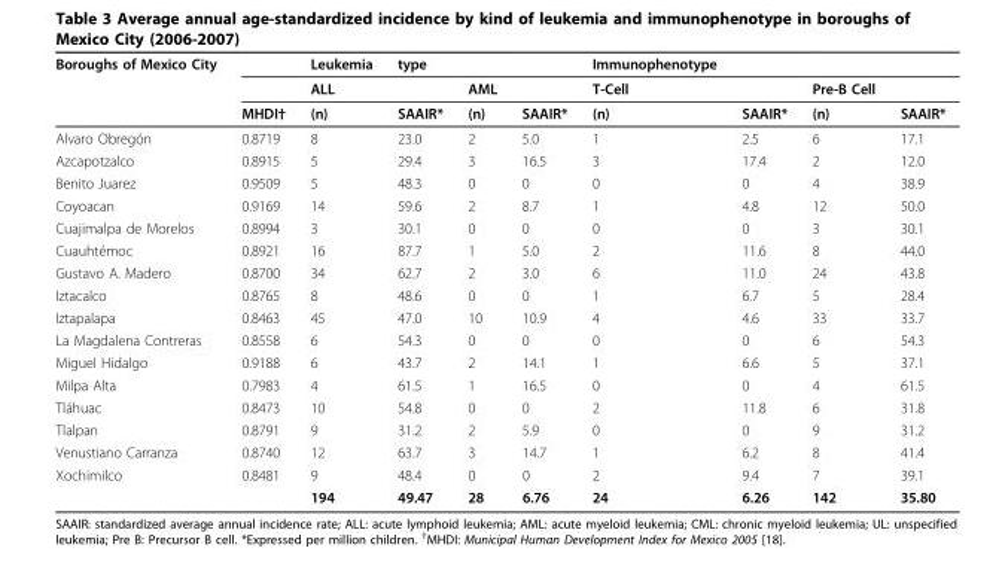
<table><thead><tr><td rowspan="3">Boroughs of Mexico City</td><td rowspan="3">MHDI†</td><td rowspan="3">Leukemia ALL (n)</td><td rowspan="3">type SAAIR*</td><td rowspan="3">AML (n)</td><td rowspan="3">SAAIR*</td><td rowspan="3">Immunophenotype T-Cell (n)</td><td rowspan="3">SAAIR*</td><td rowspan="3">Pre-B Cell (n)</td><td rowspan="3">SAAIR*</td></tr><tr></tr><tr></tr></thead><tbody><tr><td>Alvaro Obregón</td><td>0.8719</td><td>8</td><td>23.0</td><td>2</td><td>5.0</td><td>1</td><td>2.5</td><td>6</td><td>17.1</td></tr><tr><td>Azcapotzalco</td><td>0.8915</td><td>5</td><td>29.4</td><td>3</td><td>16.5</td><td>3</td><td>17.4</td><td>2</td><td>12.0</td></tr><tr><td>Benito Juarez</td><td>0.9509</td><td>5</td><td>48.3</td><td>0</td><td>0</td><td>0</td><td>0</td><td>4</td><td>38.9</td></tr><tr><td>Coyoacan</td><td>0.9169</td><td>14</td><td>59.6</td><td>2</td><td>8.7</td><td>1</td><td>4.8</td><td>12</td><td>50.0</td></tr><tr><td>Cuajimalpa de Morelos</td><td>0.8994</td><td>3</td><td>30.1</td><td>0</td><td>0</td><td>0</td><td>0</td><td>3</td><td>30.1</td></tr><tr><td>Cuauhtémoc</td><td>0.8921</td><td>16</td><td>87.7</td><td>1</td><td>5.0</td><td>2</td><td>11.6</td><td>8</td><td>44.0</td></tr><tr><td>Gustavo A. Madero</td><td>0.8700</td><td>34</td><td>62.7</td><td>2</td><td>3.0</td><td>6</td><td>11.0</td><td>24</td><td>43.8</td></tr><tr><td>Iztacalco</td><td>0.8765</td><td>8</td><td>48.6</td><td>0</td><td>0</td><td>1</td><td>6.7</td><td>5</td><td>28.4</td></tr><tr><td>Iztapalapa</td><td>0.8463</td><td>45</td><td>47.0</td><td>10</td><td>10.9</td><td>4</td><td>4.6</td><td>33</td><td>33.7</td></tr><tr><td>La Magdalena Contreras</td><td>0.8558</td><td>6</td><td>54.3</td><td>0</td><td>0</td><td>0</td><td>0</td><td>6</td><td>54.3</td></tr><tr><td>Miguel Hidalgo</td><td>0.9188</td><td>6</td><td>43.7</td><td>2</td><td>14.1</td><td>1</td><td>6.6</td><td>5</td><td>37.1</td></tr><tr><td>Milpa Alta</td><td>0.7983</td><td>4</td><td>61.5</td><td>1</td><td>16.5</td><td>0</td><td>0</td><td>4</td><td>61.5</td></tr><tr><td>Tláhuac</td><td>0.8473</td><td>10</td><td>54.8</td><td>0</td><td>0</td><td>2</td><td>11.8</td><td>6</td><td>31.8</td></tr><tr><td>Tlalpan</td><td>0.8791</td><td>9</td><td>31.2</td><td>2</td><td>5.9</td><td>0</td><td>0</td><td>9</td><td>31.2</td></tr><tr><td>Venustiano Carranza</td><td>0.8740</td><td>12</td><td>63.7</td><td>3</td><td>14.7</td><td>1</td><td>6.2</td><td>8</td><td>41.4</td></tr><tr><td rowspan="2">Xochimilco</td><td>0.8481</td><td>9</td><td>48.4</td><td>0</td><td>0</td><td>2</td><td>9.4</td><td>7</td><td>39.1</td></tr><tr><td></td><td>194</td><td>49.47</td><td>28</td><td>6.76</td><td>24</td><td>6.26</td><td>142</td><td>35.80</td></tr></tbody></table>